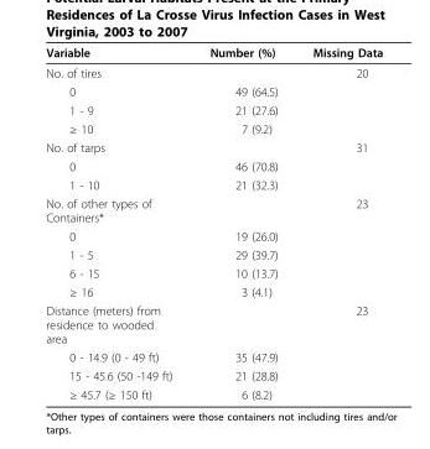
<table><thead><tr><td>Variable</td><td>Number (%)</td><td>Missing Data</td></tr></thead><tbody><tr><td>No. of tires</td><td></td><td>20</td></tr><tr><td>0</td><td>49 (64.5)</td><td></td></tr><tr><td>1 - 9</td><td>21 (27.6)</td><td></td></tr><tr><td>≥ 10</td><td>7 (9.2)</td><td></td></tr><tr><td>No. of tarps</td><td></td><td>31</td></tr><tr><td>0</td><td>46 (70.8)</td><td></td></tr><tr><td>1 - 10</td><td>21 (32.3)</td><td></td></tr><tr><td>No. of other types of Containers*</td><td></td><td>23</td></tr><tr><td>0</td><td>19 (26.0)</td><td></td></tr><tr><td>1 - 5</td><td>29 (39.7)</td><td></td></tr><tr><td>6 - 15</td><td>10 (13.7)</td><td></td></tr><tr><td>≥ 16</td><td>3 (4.1)</td><td></td></tr><tr><td>Distance (meters) from residence to wooded area</td><td></td><td>23</td></tr><tr><td>0 - 14.9 (0 - 49 ft)</td><td>35 (47.9)</td><td></td></tr><tr><td>15 - 45.6 (50 -149 ft)</td><td>21 (28.8)</td><td></td></tr><tr><td>≥ 45.7 (≥ 150 ft)</td><td>6 (8.2)</td><td></td></tr></tbody></table>